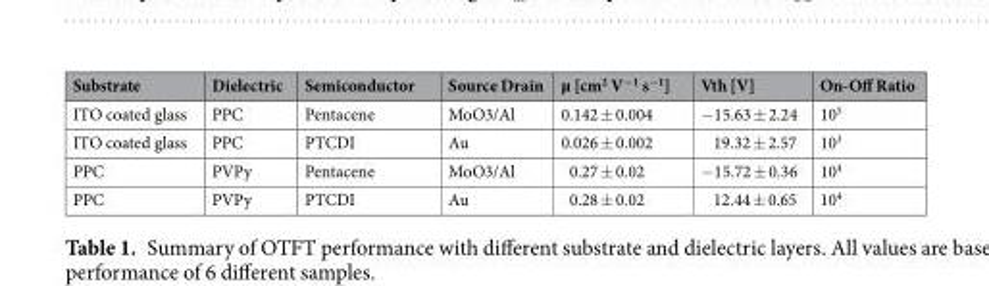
<table><thead><tr><td>Substrate</td><td>Dielectric</td><td>Semiconductor</td><td>Source Drain</td><td>µ [cm<sup>2</sup> V<sup>−1</sup> s<sup>−1</sup>]</td><td>Vth [V]</td><td>On-Off Ratio</td></tr></thead><tbody><tr><td>ITO coated glass</td><td>PPC</td><td>Pentacene</td><td>MoO3/Al</td><td>0.142 ± 0.004</td><td>−15.63 ± 2.24</td><td>10<sup>5</sup></td></tr><tr><td>ITO coated glass</td><td>PPC</td><td>PTCDI</td><td>Au</td><td>0.026 ± 0.002</td><td>19.32 ± 2.57</td><td>10<sup>3</sup></td></tr><tr><td>PPC</td><td>PVPy</td><td>Pentacene</td><td>MoO3/Al</td><td>0.27 ± 0.02</td><td>−15.72 ± 0.36</td><td>10<sup>4</sup></td></tr><tr><td>PPC</td><td>PVPy</td><td>PTCDI</td><td>Au</td><td>0.28 ± 0.02</td><td>12.44 ± 0.65</td><td>10<sup>4</sup></td></tr></tbody></table>